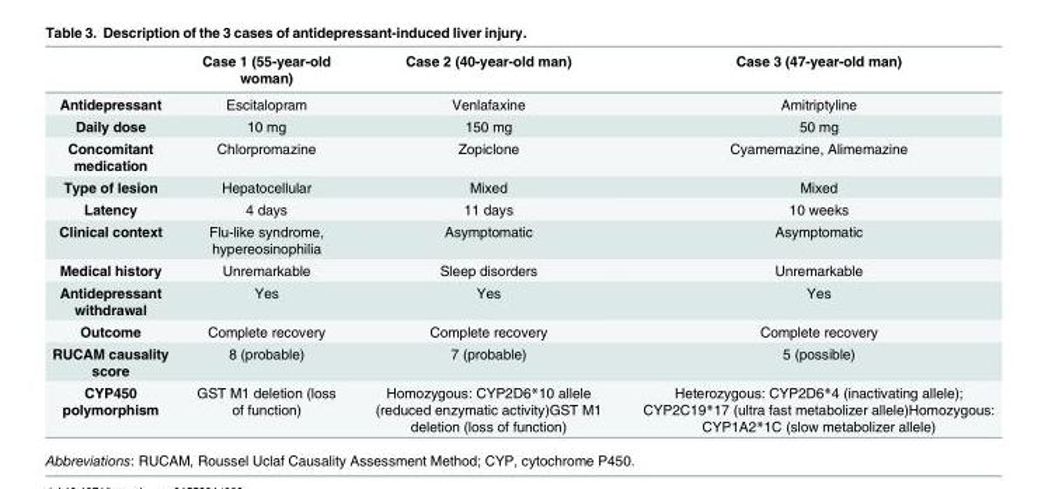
<table><thead><tr><td></td><td>Case 1 (55-year-old woman)</td><td>Case 2 (40-year-old man)</td><td>Case 3 (47-year-old man)</td></tr></thead><tbody><tr><td>Antidepressant</td><td>Escitalopram</td><td>Venlafaxine</td><td>Amitriptyline</td></tr><tr><td>Daily dose</td><td>10 mg</td><td>150 mg</td><td>50 mg</td></tr><tr><td>Concomitant medication</td><td>Chlorpromazine</td><td>Zopiclone</td><td>Cyamemazine, Alimemazine</td></tr><tr><td>Type of lesion</td><td>Hepatocellular</td><td>Mixed</td><td>Mixed</td></tr><tr><td>Latency</td><td>4 days</td><td>11 days</td><td>10 weeks</td></tr><tr><td>Clinical context</td><td>Flu-like syndrome, hypereosinophilia</td><td>Asymptomatic</td><td>Asymptomatic</td></tr><tr><td>Medical history</td><td>Unremarkable</td><td>Sleep disorders</td><td>Unremarkable</td></tr><tr><td>Antidepressant withdrawal</td><td>Yes</td><td>Yes</td><td>Yes</td></tr><tr><td>Outcome</td><td>Complete recovery</td><td>Complete recovery</td><td>Complete recovery</td></tr><tr><td>RUCAM causality score</td><td>8 (probable)</td><td>7 (probable)</td><td>5 (possible)</td></tr><tr><td>CYP450 polymorphism</td><td>GST M1 deletion (loss of function)</td><td>Homozygous: CYP2D6*10 allele (reduced enzymatic activity)GST M1 deletion (loss of function)</td><td>Heterozygous: CYP2D6*4 (inactivating allele); CYP2C19*17 (ultra fast metabolizer allele)Homozygous: CYP1A2*1C (slow metabolizer allele)</td></tr></tbody></table>